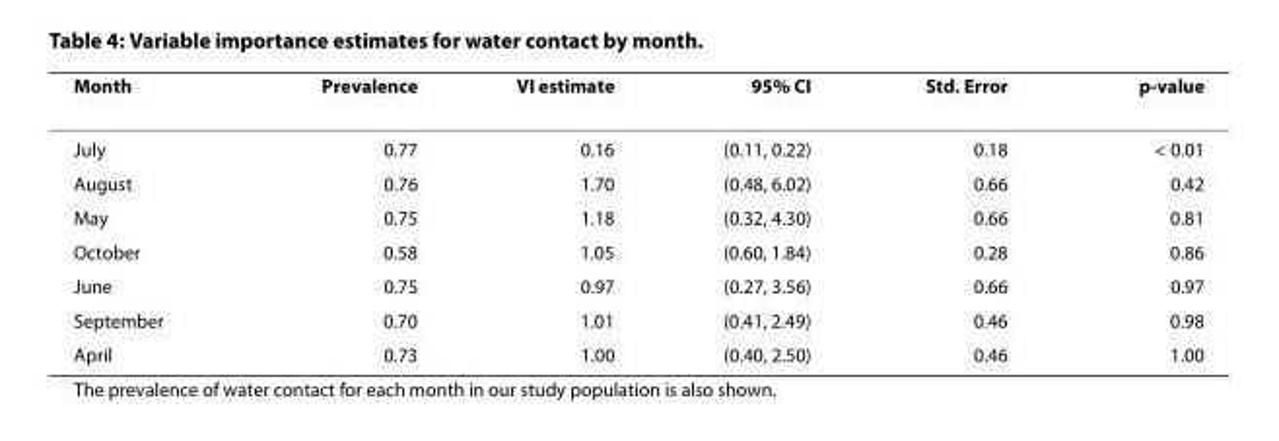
<table><thead><tr><td>Month</td><td>Prevalence</td><td>VI estimate</td><td>95% CI</td><td>Std. Error</td><td>p-value</td></tr></thead><tbody><tr><td>July</td><td>0.77</td><td>0.16</td><td>(0.11, 0.22)</td><td>0.18</td><td>&lt; 0.01</td></tr><tr><td>August</td><td>0.76</td><td>1.70</td><td>(0.48, 6.02)</td><td>0.66</td><td>0.42</td></tr><tr><td>May</td><td>0.75</td><td>1.18</td><td>(0.32, 4.30)</td><td>0.66</td><td>0.81</td></tr><tr><td>October</td><td>0.58</td><td>1.05</td><td>(0.60, 1.84)</td><td>0.28</td><td>0.86</td></tr><tr><td>June</td><td>0.75</td><td>0.97</td><td>(0.27, 3.56)</td><td>0.66</td><td>0.97</td></tr><tr><td>September</td><td>0.70</td><td>1.01</td><td>(0.41, 2.49)</td><td>0.46</td><td>0.98</td></tr><tr><td>April</td><td>0.73</td><td>1.00</td><td>(0.40, 2.50)</td><td>0.46</td><td>1.00</td></tr></tbody></table>